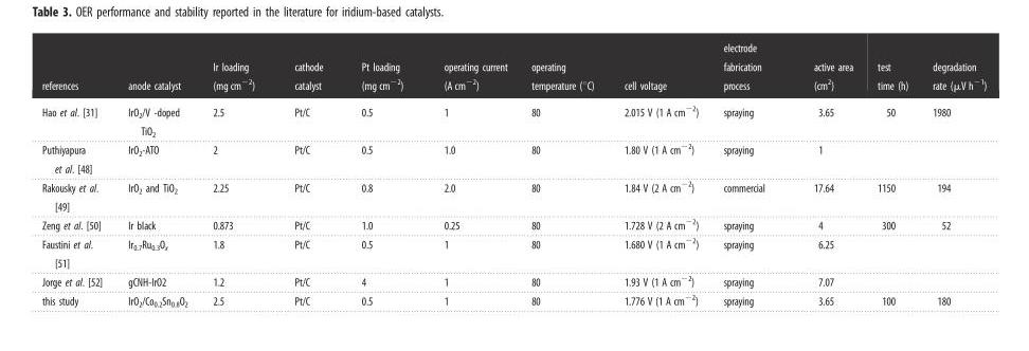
<table><thead><tr><td>references</td><td>anode catalyst</td><td>Ir loading (mg cm<sup>−2</sup>)</td><td>cathode catalyst</td><td>Pt loading (mg cm<sup>−2</sup>)</td><td>operating current (A cm<sup>−2</sup>)</td><td>operating temperature (°C)</td><td>cell voltage</td><td>electrode fabrication process</td><td>active area (cm<sup>2</sup>)</td><td>test time (h)</td><td>degradation rate (μV h<sup>−1</sup>)</td></tr></thead><tbody><tr><td>Hao et al. [31]</td><td>IrO<sub>2</sub>/V -doped TiO<sub>2</sub></td><td>2.5</td><td>Pt/C</td><td>0.5</td><td>1</td><td>80</td><td>2.015 V (1 A cm<sup>−2</sup>)</td><td>spraying</td><td>3.65</td><td>50</td><td>1980</td></tr><tr><td>Puthiyapura et al. [48]</td><td>IrO<sub>2</sub>-ATO</td><td>2</td><td>Pt/C</td><td>0.5</td><td>1.0</td><td>80</td><td>1.80 V (1 A cm<sup>−2</sup>)</td><td>spraying</td><td>1</td><td></td><td></td></tr><tr><td>Rakousky et al. [49]</td><td>IrO<sub>2</sub> and TiO<sub>2</sub></td><td>2.25</td><td>Pt/C</td><td>0.8</td><td>2.0</td><td>80</td><td>1.84 V (2 A cm<sup>−2</sup>)</td><td>commercial</td><td>17.64</td><td>1150</td><td>194</td></tr><tr><td>Zeng et al. [50]</td><td>Ir black</td><td>0.873</td><td>Pt/C</td><td>1.0</td><td>0.25</td><td>80</td><td>1.728 V (2 A cm<sup>−2</sup>)</td><td>spraying</td><td>4</td><td>300</td><td>52</td></tr><tr><td>Faustini et al. [51]</td><td>Ir<sub>0.7</sub>Ru<sub>0.3</sub>O<sub>x</sub></td><td>1.8</td><td>Pt/C</td><td>0.5</td><td>1</td><td>80</td><td>1.680 V (1 A cm<sup>−2</sup>)</td><td>spraying</td><td>6.25</td><td></td><td></td></tr><tr><td>Jorge et al. [52]</td><td>gCNH-IrO2</td><td>1.2</td><td>Pt/C</td><td>4</td><td>1</td><td>80</td><td>1.93 V (1 A cm<sup>−2</sup>)</td><td>spraying</td><td>7.07</td><td></td><td></td></tr><tr><td>this study</td><td>IrO<sub>2</sub>/Co<sub>0.2</sub>Sn<sub>0.8</sub>O<sub>2</sub></td><td>2.5</td><td>Pt/C</td><td>0.5</td><td>1</td><td>80</td><td>1.776 V (1 A cm<sup>−2</sup>)</td><td>spraying</td><td>3.65</td><td>100</td><td>180</td></tr></tbody></table>